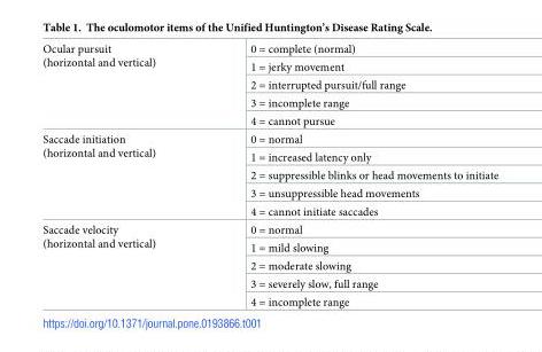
<table><tbody><tr><td rowspan="5">Ocular pursuit (horizontal and vertical)</td><td>0 = complete (normal)</td></tr><tr><td>1 = jerky movement</td></tr><tr><td>2 = interrupted pursuit/full range</td></tr><tr><td>3 = incomplete range</td></tr><tr><td>4 = cannot pursue</td></tr><tr><td rowspan="5">Saccade initiation (horizontal and vertical)</td><td>0 = normal</td></tr><tr><td>1 = increased latency only</td></tr><tr><td>2 = suppressible blinks or head movements to initiate</td></tr><tr><td>3 = unsuppressible head movements</td></tr><tr><td>4 = cannot initiate saccades</td></tr><tr><td rowspan="5">Saccade velocity (horizontal and vertical)</td><td>0 = normal</td></tr><tr><td>1 = mild slowing</td></tr><tr><td>2 = moderate slowing</td></tr><tr><td>3 = severely slow, full range</td></tr><tr><td>4 = incomplete range</td></tr></tbody></table>